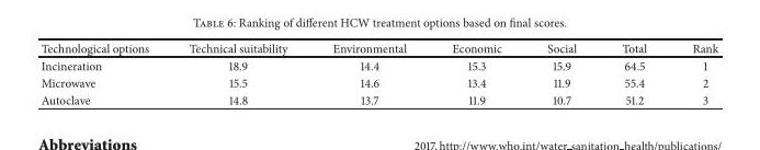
<table><thead><tr><td>Technological options</td><td>Technical suitability</td><td>Environmental</td><td>Economic</td><td>Social</td><td>Total</td><td>Rank</td></tr></thead><tbody><tr><td>Incineration</td><td>18.9</td><td>14.4</td><td>15.3</td><td>15.9</td><td>64.5</td><td>1</td></tr><tr><td>Microwave</td><td>15.5</td><td>14.6</td><td>13.4</td><td>11.9</td><td>55.4</td><td>2</td></tr><tr><td>Autoclave</td><td>14.8</td><td>13.7</td><td>11.9</td><td>10.7</td><td>51.2</td><td>3</td></tr></tbody></table>